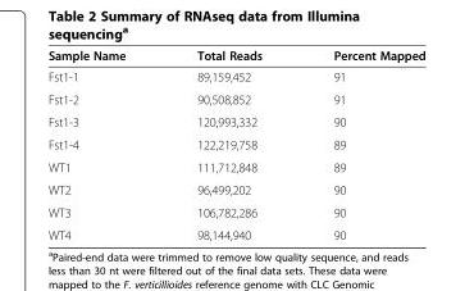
<table><thead><tr><td>Sample Name</td><td>Total Reads</td><td>Percent Mapped</td></tr></thead><tbody><tr><td>Fst1-1</td><td>89,159,452</td><td>91</td></tr><tr><td>Fst1-2</td><td>90,508,852</td><td>91</td></tr><tr><td>Fst1-3</td><td>120,993,332</td><td>90</td></tr><tr><td>Fst1-4</td><td>122,219,758</td><td>89</td></tr><tr><td>WT1</td><td>111,712,848</td><td>89</td></tr><tr><td>WT2</td><td>96,499,202</td><td>90</td></tr><tr><td>WT3</td><td>106,782,286</td><td>90</td></tr><tr><td>WT4</td><td>98,144,940</td><td>90</td></tr></tbody></table>